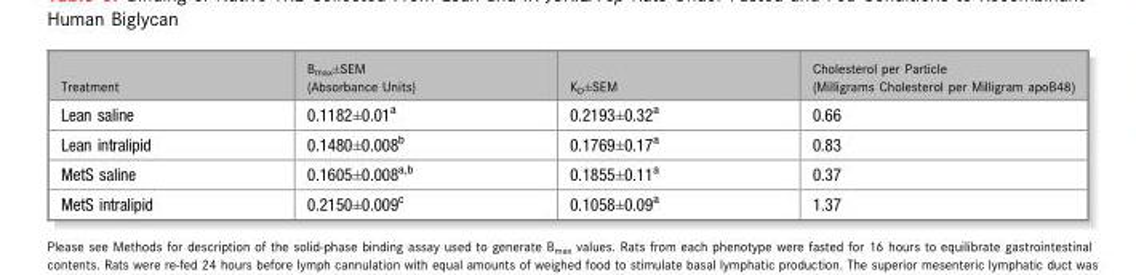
<table><thead><tr><td>Treatment</td><td>B<sub>max</sub>±SEM (Absorbance Units)</td><td>K<sub>D</sub>±SEM</td><td>Cholesterol per Particle (Milligrams Cholesterol per Milligram apoB48)</td></tr></thead><tbody><tr><td>Lean saline</td><td>0.1182±0.01<sup>a</sup></td><td>0.2193±0.32<sup>a</sup></td><td>0.66</td></tr><tr><td>Lean intralipid</td><td>0.1480±0.008<sup>b</sup></td><td>0.1769±0.17<sup>a</sup></td><td>0.83</td></tr><tr><td>MetS saline</td><td>0.1605±0.008<sup>a,b</sup></td><td>0.1855±0.11<sup>a</sup></td><td>0.37</td></tr><tr><td>MetS intralipid</td><td>0.2150±0.009<sup>c</sup></td><td>0.1058±0.09<sup>a</sup></td><td>1.37</td></tr></tbody></table>